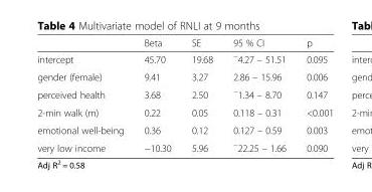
<table><thead><tr><td></td><td>Beta</td><td>SE</td><td>95 % CI</td><td>p</td></tr></thead><tbody><tr><td>intercept</td><td>45.70</td><td>19.68</td><td><sup>−</sup>4.27 – 51.51</td><td>0.095</td></tr><tr><td>gender (female)</td><td>9.41</td><td>3.27</td><td>2.86 – 15.96</td><td>0.006</td></tr><tr><td>perceived health</td><td>3.68</td><td>2.50</td><td><sup>−</sup>1.34 – 8.70</td><td>0.147</td></tr><tr><td>2-min walk (m)</td><td>0.22</td><td>0.05</td><td>0.118 – 0.31</td><td>&lt;0.001</td></tr><tr><td>emotional well-being</td><td>0.36</td><td>0.12</td><td>0.127 – 0.59</td><td>0.003</td></tr><tr><td>very low income</td><td>−10.30</td><td>5.96</td><td><sup>−</sup>22.25 – 1.66</td><td>0.090</td></tr></tbody></table>